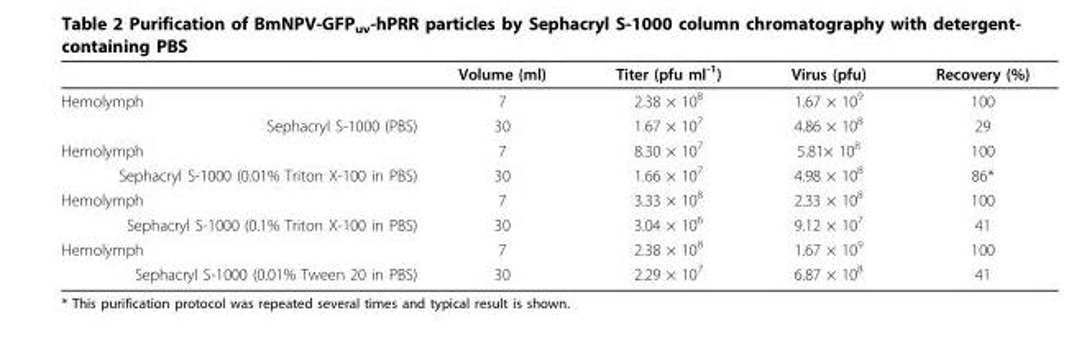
<table><thead><tr><td></td><td>Volume (ml)</td><td>Titer (pfu ml<sup>-1</sup>)</td><td>Virus (pfu)</td><td>Recovery (%)</td></tr></thead><tbody><tr><td>Hemolymph</td><td>7</td><td>2.38 × 10<sup>8</sup></td><td>1.67 × 10<sup>9</sup></td><td>100</td></tr><tr><td>Sephacryl S-1000 (PBS)</td><td>30</td><td>1.67 × 10<sup>7</sup></td><td>4.86 × 10<sup>8</sup></td><td>29</td></tr><tr><td>Hemolymph</td><td>7</td><td>8.30 × 10<sup>7</sup></td><td>5.81× 10<sup>8</sup></td><td>100</td></tr><tr><td>Sephacryl S-1000 (0.01% Triton X-100 in PBS)</td><td>30</td><td>1.66 × 10<sup>7</sup></td><td>4.98 × 10<sup>8</sup></td><td>86*</td></tr><tr><td>Hemolymph</td><td>7</td><td>3.33 × 10<sup>8</sup></td><td>2.33 × 10<sup>8</sup></td><td>100</td></tr><tr><td>Sephacryl S-1000 (0.1% Triton X-100 in PBS)</td><td>30</td><td>3.04 × 10<sup>6</sup></td><td>9.12 × 10<sup>7</sup></td><td>41</td></tr><tr><td>Hemolymph</td><td>7</td><td>2.38 × 10<sup>8</sup></td><td>1.67 × 10<sup>9</sup></td><td>100</td></tr><tr><td>Sephacryl S-1000 (0.01% Tween 20 in PBS)</td><td>30</td><td>2.29 × 10<sup>7</sup></td><td>6.87 × 10<sup>8</sup></td><td>41</td></tr></tbody></table>